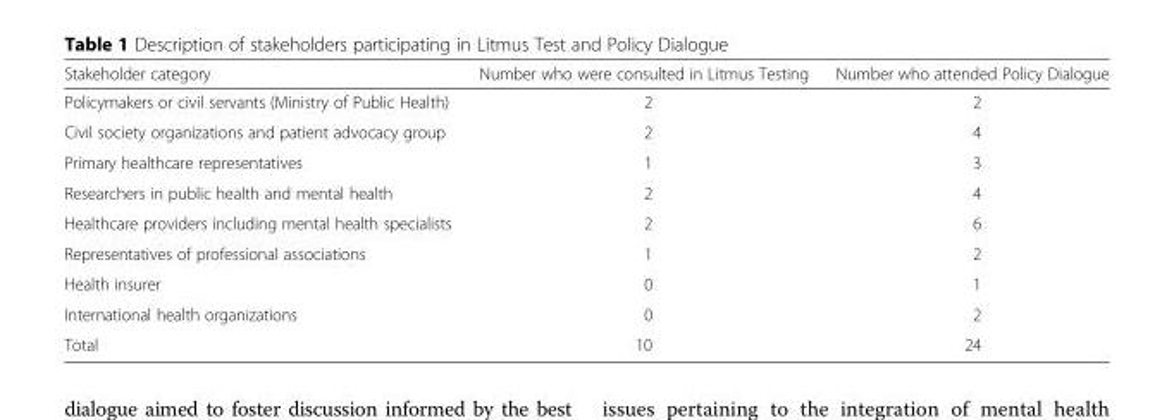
<table><thead><tr><td>Stakeholder category</td><td>Number who were consulted in Litmus Testing</td><td>Number who attended Policy Dialogue</td></tr></thead><tbody><tr><td>Policymakers or civil servants (Ministry of Public Health)</td><td>2</td><td>2</td></tr><tr><td>Civil society organizations and patient advocacy group</td><td>2</td><td>4</td></tr><tr><td>Primary healthcare representatives</td><td>1</td><td>3</td></tr><tr><td>Researchers in public health and mental health</td><td>2</td><td>4</td></tr><tr><td>Healthcare providers including mental health specialists</td><td>2</td><td>6</td></tr><tr><td>Representatives of professional associations</td><td>1</td><td>2</td></tr><tr><td>Health insurer</td><td>0</td><td>1</td></tr><tr><td>International health organizations</td><td>0</td><td>2</td></tr><tr><td>Total</td><td>10</td><td>24</td></tr></tbody></table>